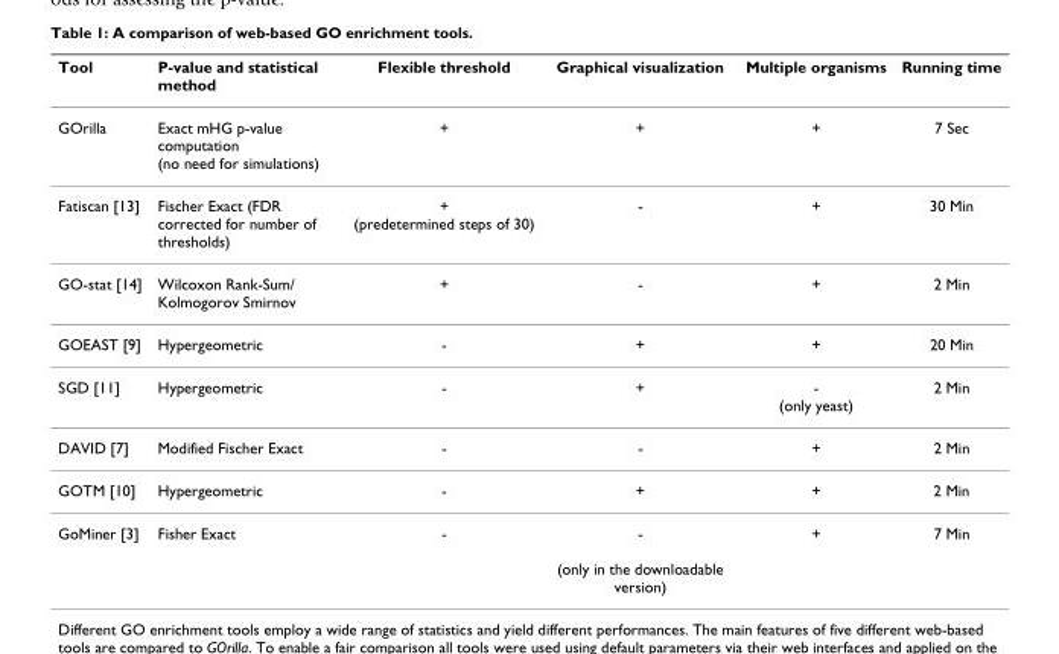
<table><thead><tr><td>Tool</td><td>P-value and statistical method</td><td>Flexible threshold</td><td>Graphical visualization</td><td>Multiple organisms</td><td>Running time</td></tr></thead><tbody><tr><td>GOrilla</td><td>Exact mHG p-value computation (no need for simulations)</td><td>+</td><td>+</td><td>+</td><td>7 Sec</td></tr><tr><td>Fatiscan [13]</td><td>Fischer Exact (FDR corrected for number of thresholds)</td><td>+ (predetermined steps of 30)</td><td>-</td><td>+</td><td>30 Min</td></tr><tr><td>GO-stat [14]</td><td>Wilcoxon Rank-Sum/ Kolmogorov Smirnov</td><td>+</td><td>-</td><td>+</td><td>2 Min</td></tr><tr><td>GOEAST [9]</td><td>Hypergeometric</td><td>-</td><td>+</td><td>+</td><td>20 Min</td></tr><tr><td>SGD [11]</td><td>Hypergeometric</td><td>-</td><td>+</td><td>- (only yeast)</td><td>2 Min</td></tr><tr><td>DAVID [7]</td><td>Modified Fischer Exact</td><td>-</td><td>-</td><td>+</td><td>2 Min</td></tr><tr><td>GOTM [10]</td><td>Hypergeometric</td><td>-</td><td>+</td><td>+</td><td>2 Min</td></tr><tr><td>GoMiner [3]</td><td>Fisher Exact</td><td>-</td><td>- (only in the downloadable version)</td><td>+</td><td>7 Min</td></tr></tbody></table>